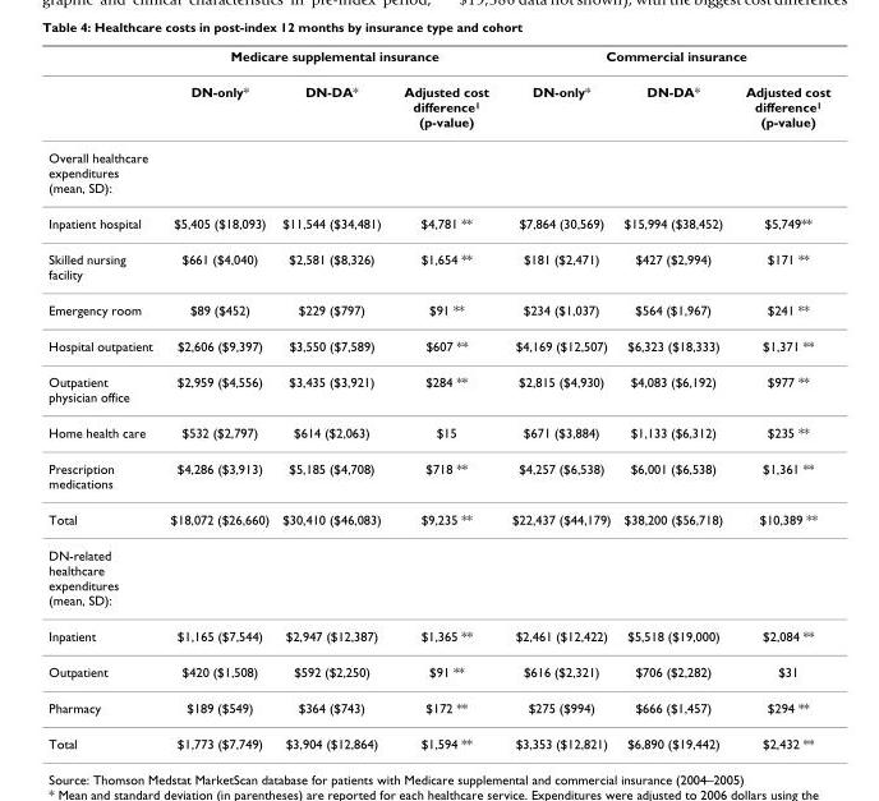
<table><thead><tr><td rowspan="2"></td><td colspan="3">Medicare supplemental insurance</td><td colspan="3">Commercial insurance</td></tr><tr><td>DN-only*</td><td>DN-DA*</td><td>Adjusted cost difference<sup>1</sup> (p-value)</td><td>DN-only*</td><td>DN-DA*</td><td>Adjusted cost difference<sup>1</sup> (p-value)</td></tr></thead><tbody><tr><td colspan="7">Overall healthcare expenditures (mean, SD):</td></tr><tr><td>Inpatient hospital</td><td>$5,405 ($18,093)</td><td>$11,544 ($34,481)</td><td>$4,781 **</td><td>$7,864 (30,569)</td><td>$15,994 ($38,452)</td><td>$5,749**</td></tr><tr><td>Skilled nursing facility</td><td>$661 ($4,040)</td><td>$2,581 ($8,326)</td><td>$1,654 **</td><td>$181 ($2,471)</td><td>$427 ($2,994)</td><td>$171 **</td></tr><tr><td>Emergency room</td><td>$89 ($452)</td><td>$229 ($797)</td><td>$91 **</td><td>$234 ($1,037)</td><td>$564 ($1,967)</td><td>$241 **</td></tr><tr><td>Hospital outpatient</td><td>$2,606 ($9,397)</td><td>$3,550 ($7,589)</td><td>$607 **</td><td>$4,169 ($12,507)</td><td>$6,323 ($18,333)</td><td>$1,371 **</td></tr><tr><td>Outpatient physician office</td><td>$2,959 ($4,556)</td><td>$3,435 ($3,921)</td><td>$284 **</td><td>$2,815 ($4,930)</td><td>$4,083 ($6,192)</td><td>$977 **</td></tr><tr><td>Home health care</td><td>$532 ($2,797)</td><td>$614 ($2,063)</td><td>$15</td><td>$671 ($3,884)</td><td>$1,133 ($6,312)</td><td>$235 **</td></tr><tr><td>Prescription medications</td><td>$4,286 ($3,913)</td><td>$5,185 ($4,708)</td><td>$718 **</td><td>$4,257 ($6,538)</td><td>$6,001 ($6,538)</td><td>$1,361 **</td></tr><tr><td>Total</td><td>$18,072 ($26,660)</td><td>$30,410 ($46,083)</td><td>$9,235 **</td><td>$22,437 ($44,179)</td><td>$38,200 ($56,718)</td><td>$10,389 **</td></tr><tr><td colspan="7">DN-related healthcare expenditures (mean, SD):</td></tr><tr><td>Inpatient</td><td>$1,165 ($7,544)</td><td>$2,947 ($12,387)</td><td>$1,365 **</td><td>$2,461 ($12,422)</td><td>$5,518 ($19,000)</td><td>$2,084 **</td></tr><tr><td>Outpatient</td><td>$420 ($1,508)</td><td>$592 ($2,250)</td><td>$91 **</td><td>$616 ($2,321)</td><td>$706 ($2,282)</td><td>$31</td></tr><tr><td>Pharmacy</td><td>$189 ($549)</td><td>$364 ($743)</td><td>$172 **</td><td>$275 ($994)</td><td>$666 ($1,457)</td><td>$294 **</td></tr><tr><td>Total</td><td>$1,773 ($7,749)</td><td>$3,904 ($12,864)</td><td>$1,594 **</td><td>$3,353 ($12,821)</td><td>$6,890 ($19,442)</td><td>$2,432 **</td></tr></tbody></table>